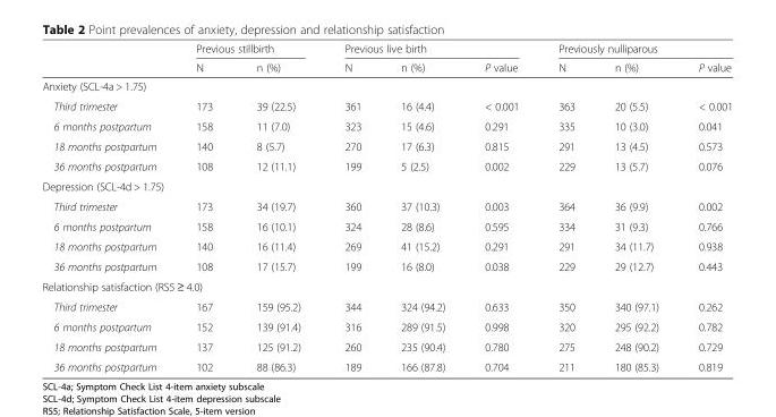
<table><thead><tr><td rowspan="2"></td><td colspan="2">Previous stillbirth</td><td colspan="3">Previous live birth</td><td colspan="3">Previously nulliparous</td></tr><tr><td>N</td><td>n (%)</td><td>N</td><td>n (%)</td><td>P value</td><td>N</td><td>n (%)</td><td>P value</td></tr></thead><tbody><tr><td colspan="9">Anxiety (SCL-4a &gt; 1.75)</td></tr><tr><td>Third trimester</td><td>173</td><td>39 (22.5)</td><td>361</td><td>16 (4.4)</td><td>&lt; 0.001</td><td>363</td><td>20 (5.5)</td><td>&lt; 0.001</td></tr><tr><td>6 months postpartum</td><td>158</td><td>11 (7.0)</td><td>323</td><td>15 (4.6)</td><td>0.291</td><td>335</td><td>10 (3.0)</td><td>0.041</td></tr><tr><td>18 months postpartum</td><td>140</td><td>8 (5.7)</td><td>270</td><td>17 (6.3)</td><td>0.815</td><td>291</td><td>13 (4.5)</td><td>0.573</td></tr><tr><td>36 months postpartum</td><td>108</td><td>12 (11.1)</td><td>199</td><td>5 (2.5)</td><td>0.002</td><td>229</td><td>13 (5.7)</td><td>0.076</td></tr><tr><td colspan="9">Depression (SCL-4d &gt; 1.75)</td></tr><tr><td>Third trimester</td><td>173</td><td>34 (19.7)</td><td>360</td><td>37 (10.3)</td><td>0.003</td><td>364</td><td>36 (9.9)</td><td>0.002</td></tr><tr><td>6 months postpartum</td><td>158</td><td>16 (10.1)</td><td>324</td><td>28 (8.6)</td><td>0.595</td><td>334</td><td>31 (9.3)</td><td>0.766</td></tr><tr><td>18 months postpartum</td><td>140</td><td>16 (11.4)</td><td>269</td><td>41 (15.2)</td><td>0.291</td><td>291</td><td>34 (11.7)</td><td>0.938</td></tr><tr><td>36 months postpartum</td><td>108</td><td>17 (15.7)</td><td>199</td><td>16 (8.0)</td><td>0.038</td><td>229</td><td>29 (12.7)</td><td>0.443</td></tr><tr><td colspan="9">Relationship satisfaction (RS5 ≥ 4.0)</td></tr><tr><td>Third trimester</td><td>167</td><td>159 (95.2)</td><td>344</td><td>324 (94.2)</td><td>0.633</td><td>350</td><td>340 (97.1)</td><td>0.262</td></tr><tr><td>6 months postpartum</td><td>152</td><td>139 (91.4)</td><td>316</td><td>289 (91.5)</td><td>0.998</td><td>320</td><td>295 (92.2)</td><td>0.782</td></tr><tr><td>18 months postpartum</td><td>137</td><td>125 (91.2)</td><td>260</td><td>235 (90.4)</td><td>0.780</td><td>275</td><td>248 (90.2)</td><td>0.729</td></tr><tr><td>36 months postpartum</td><td>102</td><td>88 (86.3)</td><td>189</td><td>166 (87.8)</td><td>0.704</td><td>211</td><td>180 (85.3)</td><td>0.819</td></tr></tbody></table>